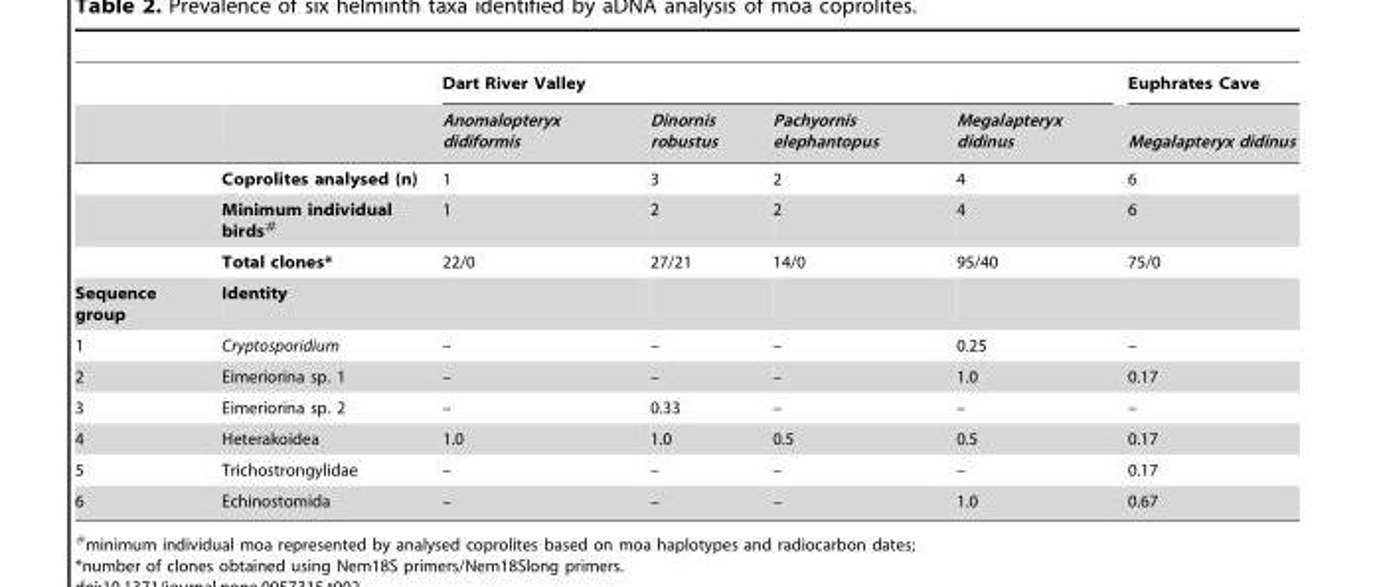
<table><thead><tr><td rowspan="2"></td><td rowspan="2"></td><td colspan="4">Dart River Valley</td><td rowspan="2">Euphrates Cave Megalapteryx didinus</td></tr><tr><td>Anomalopteryx didiformis</td><td>Dinornis robustus</td><td>Pachyornis elephantopus</td><td>Megalapteryx didinus</td></tr></thead><tbody><tr><td></td><td>Coprolites analysed (n)</td><td>1</td><td>3</td><td>2</td><td>4</td><td>6</td></tr><tr><td></td><td>Minimum individual birds#</td><td>1</td><td>2</td><td>2</td><td>4</td><td>6</td></tr><tr><td></td><td>Total clones*</td><td>22/0</td><td>27/21</td><td>14/0</td><td>95/40</td><td>75/0</td></tr><tr><td>Sequence group</td><td>Identity</td><td></td><td></td><td></td><td></td><td></td></tr><tr><td>1</td><td>Cryptosporidium</td><td>–</td><td>–</td><td>–</td><td>0.25</td><td>–</td></tr><tr><td>2</td><td>Eimeriorina sp. 1</td><td>–</td><td>–</td><td>–</td><td>1.0</td><td>0.17</td></tr><tr><td>3</td><td>Eimeriorina sp. 2</td><td>–</td><td>0.33</td><td>–</td><td>–</td><td>–</td></tr><tr><td>4</td><td>Heterakoidea</td><td>1.0</td><td>1.0</td><td>0.5</td><td>0.5</td><td>0.17</td></tr><tr><td>5</td><td>Trichostrongylidae</td><td>–</td><td>–</td><td>–</td><td>–</td><td>0.17</td></tr><tr><td>6</td><td>Echinostomida</td><td>–</td><td>–</td><td>–</td><td>1.0</td><td>0.67</td></tr></tbody></table>